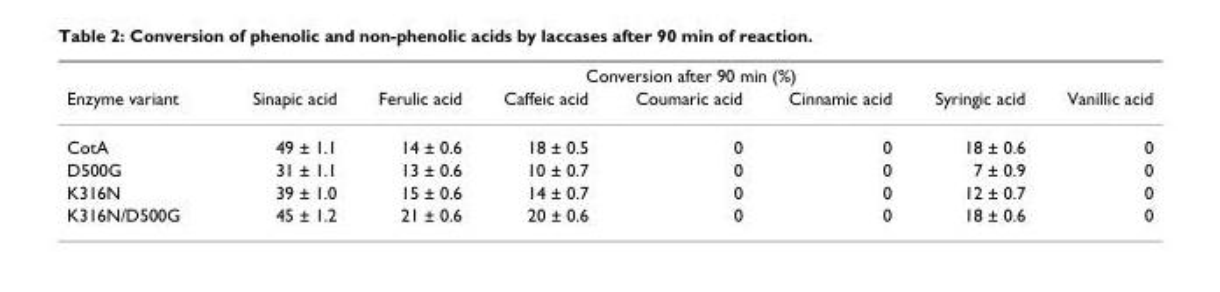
<table><thead><tr><td rowspan="2">Enzyme variant</td><td colspan="7">Conversion after 90 min (%)</td></tr><tr><td>Sinapic acid</td><td>Ferulic acid</td><td>Caffeic acid</td><td>Coumaric acid</td><td>Cinnamic acid</td><td>Syringic acid</td><td>Vanillic acid</td></tr></thead><tbody><tr><td>CotA</td><td>49 ± 1.1</td><td>14 ± 0.6</td><td>18 ± 0.5</td><td>0</td><td>0</td><td>18 ± 0.6</td><td>0</td></tr><tr><td>D500G</td><td>31 ± 1.1</td><td>13 ± 0.6</td><td>10 ± 0.7</td><td>0</td><td>0</td><td>7 ± 0.9</td><td>0</td></tr><tr><td>K316N</td><td>39 ± 1.0</td><td>15 ± 0.6</td><td>14 ± 0.7</td><td>0</td><td>0</td><td>12 ± 0.7</td><td>0</td></tr><tr><td>K316N/D500G</td><td>45 ± 1.2</td><td>21 ± 0.6</td><td>20 ± 0.6</td><td>0</td><td>0</td><td>18 ± 0.6</td><td>0</td></tr></tbody></table>